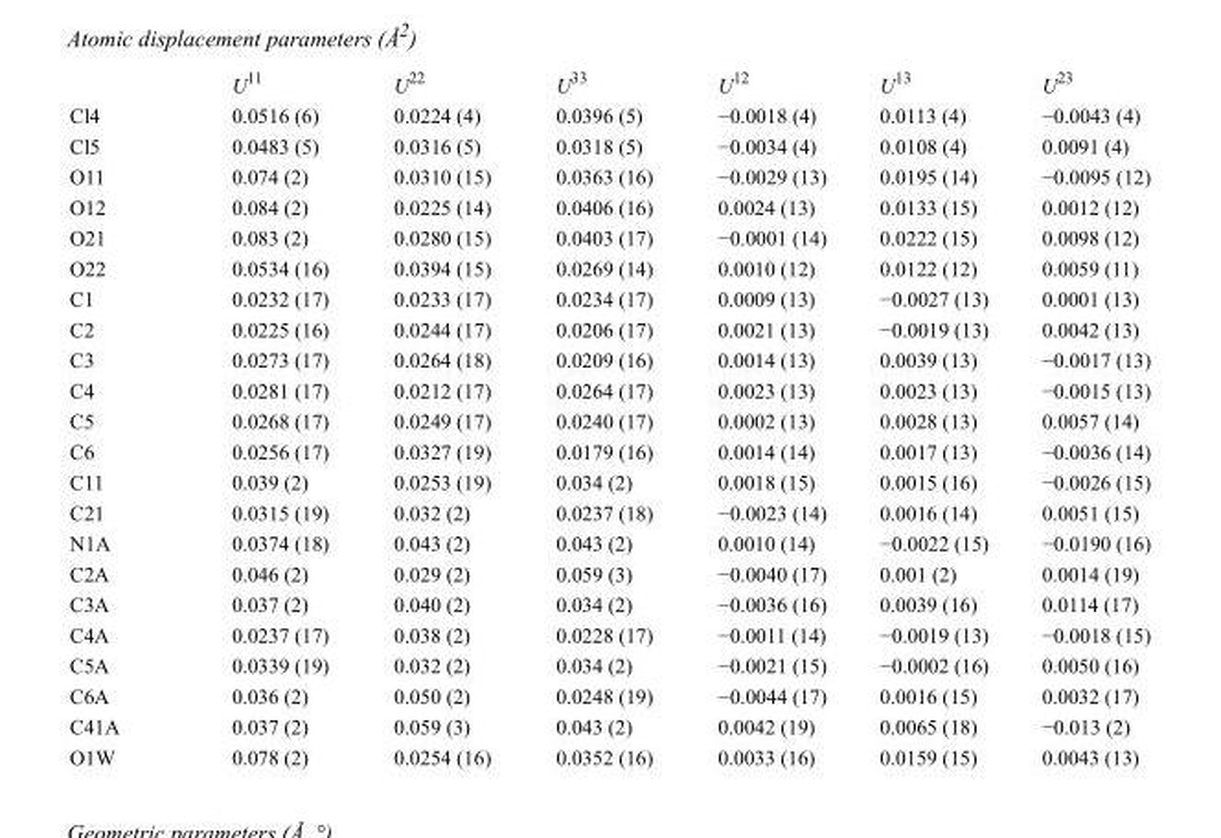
<table><thead><tr><td></td><td>U<sup>11</sup></td><td>U<sup>22</sup></td><td>U<sup>33</sup></td><td>U<sup>12</sup></td><td>U<sup>13</sup></td><td>U<sup>23</sup></td></tr></thead><tbody><tr><td>Cl4</td><td>0.0516 (6)</td><td>0.0224 (4)</td><td>0.0396 (5)</td><td>−0.0018 (4)</td><td>0.0113 (4)</td><td>−0.0043 (4)</td></tr><tr><td>Cl5</td><td>0.0483 (5)</td><td>0.0316 (5)</td><td>0.0318 (5)</td><td>−0.0034 (4)</td><td>0.0108 (4)</td><td>0.0091 (4)</td></tr><tr><td>O11</td><td>0.074 (2)</td><td>0.0310 (15)</td><td>0.0363 (16)</td><td>−0.0029 (13)</td><td>0.0195 (14)</td><td>−0.0095 (12)</td></tr><tr><td>O12</td><td>0.084 (2)</td><td>0.0225 (14)</td><td>0.0406 (16)</td><td>0.0024 (13)</td><td>0.0133 (15)</td><td>0.0012 (12)</td></tr><tr><td>O21</td><td>0.083 (2)</td><td>0.0280 (15)</td><td>0.0403 (17)</td><td>−0.0001 (14)</td><td>0.0222 (15)</td><td>0.0098 (12)</td></tr><tr><td>O22</td><td>0.0534 (16)</td><td>0.0394 (15)</td><td>0.0269 (14)</td><td>0.0010 (12)</td><td>0.0122 (12)</td><td>0.0059 (11)</td></tr><tr><td>C1</td><td>0.0232 (17)</td><td>0.0233 (17)</td><td>0.0234 (17)</td><td>0.0009 (13)</td><td>−0.0027 (13)</td><td>0.0001 (13)</td></tr><tr><td>C2</td><td>0.0225 (16)</td><td>0.0244 (17)</td><td>0.0206 (17)</td><td>0.0021 (13)</td><td>−0.0019 (13)</td><td>0.0042 (13)</td></tr><tr><td>C3</td><td>0.0273 (17)</td><td>0.0264 (18)</td><td>0.0209 (16)</td><td>0.0014 (13)</td><td>0.0039 (13)</td><td>−0.0017 (13)</td></tr><tr><td>C4</td><td>0.0281 (17)</td><td>0.0212 (17)</td><td>0.0264 (17)</td><td>0.0023 (13)</td><td>0.0023 (13)</td><td>−0.0015 (13)</td></tr><tr><td>C5</td><td>0.0268 (17)</td><td>0.0249 (17)</td><td>0.0240 (17)</td><td>0.0002 (13)</td><td>0.0028 (13)</td><td>0.0057 (14)</td></tr><tr><td>C6</td><td>0.0256 (17)</td><td>0.0327 (19)</td><td>0.0179 (16)</td><td>0.0014 (14)</td><td>0.0017 (13)</td><td>−0.0036 (14)</td></tr><tr><td>C11</td><td>0.039 (2)</td><td>0.0253 (19)</td><td>0.034 (2)</td><td>0.0018 (15)</td><td>0.0015 (16)</td><td>−0.0026 (15)</td></tr><tr><td>C21</td><td>0.0315 (19)</td><td>0.032 (2)</td><td>0.0237 (18)</td><td>−0.0023 (14)</td><td>0.0016 (14)</td><td>0.0051 (15)</td></tr><tr><td>N1A</td><td>0.0374 (18)</td><td>0.043 (2)</td><td>0.043 (2)</td><td>0.0010 (14)</td><td>−0.0022 (15)</td><td>−0.0190 (16)</td></tr><tr><td>C2A</td><td>0.046 (2)</td><td>0.029 (2)</td><td>0.059 (3)</td><td>−0.0040 (17)</td><td>0.001 (2)</td><td>0.0014 (19)</td></tr><tr><td>C3A</td><td>0.037 (2)</td><td>0.040 (2)</td><td>0.034 (2)</td><td>−0.0036 (16)</td><td>0.0039 (16)</td><td>0.0114 (17)</td></tr><tr><td>C4A</td><td>0.0237 (17)</td><td>0.038 (2)</td><td>0.0228 (17)</td><td>−0.0011 (14)</td><td>−0.0019 (13)</td><td>−0.0018 (15)</td></tr><tr><td>C5A</td><td>0.0339 (19)</td><td>0.032 (2)</td><td>0.034 (2)</td><td>−0.0021 (15)</td><td>−0.0002 (16)</td><td>0.0050 (16)</td></tr><tr><td>C6A</td><td>0.036 (2)</td><td>0.050 (2)</td><td>0.0248 (19)</td><td>−0.0044 (17)</td><td>0.0016 (15)</td><td>0.0032 (17)</td></tr><tr><td>C41A</td><td>0.037 (2)</td><td>0.059 (3)</td><td>0.043 (2)</td><td>0.0042 (19)</td><td>0.0065 (18)</td><td>−0.013 (2)</td></tr><tr><td>O1W</td><td>0.078 (2)</td><td>0.0254 (16)</td><td>0.0352 (16)</td><td>0.0033 (16)</td><td>0.0159 (15)</td><td>0.0043 (13)</td></tr></tbody></table>